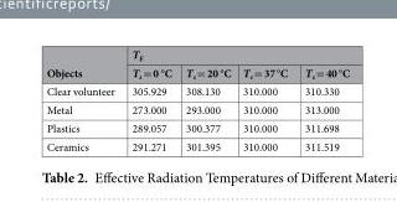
<table><thead><tr><td rowspan="2">Objects</td><td colspan="4">T<sub>E</sub></td></tr><tr><td>T<sub>s</sub> = 0 °C</td><td>T<sub>s</sub> = 20 °C</td><td>T<sub>s</sub> = 37 °C</td><td>T<sub>s</sub> = 40 °C</td></tr></thead><tbody><tr><td>Clear volunteer</td><td>305.929</td><td>308.130</td><td>310.000</td><td>310.330</td></tr><tr><td>Metal</td><td>273.000</td><td>293.000</td><td>310.000</td><td>313.000</td></tr><tr><td>Plastics</td><td>289.057</td><td>300.377</td><td>310.000</td><td>311.698</td></tr><tr><td>Ceramics</td><td>291.271</td><td>301.395</td><td>310.000</td><td>311.519</td></tr></tbody></table>